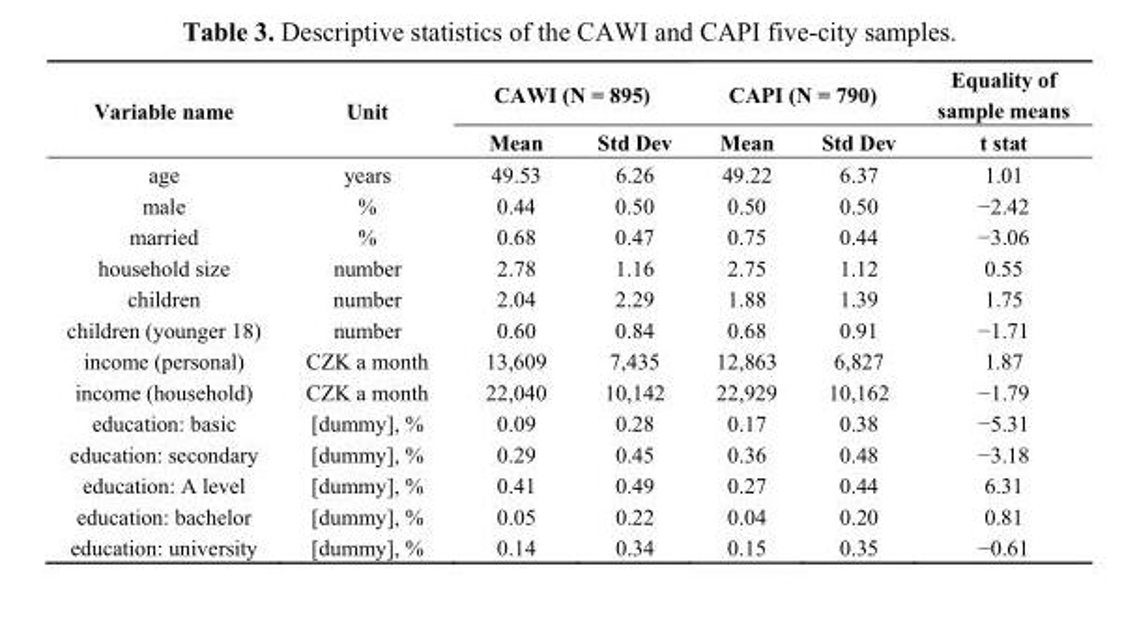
<table><thead><tr><td rowspan="2">Variable name</td><td rowspan="2">Unit</td><td colspan="2">CAWI (N = 895)</td><td colspan="2">CAPI (N = 790)</td><td rowspan="2">Equality of sample means t stat</td></tr><tr><td>Mean</td><td>Std Dev</td><td>Mean</td><td>Std Dev</td></tr></thead><tbody><tr><td>age</td><td>years</td><td>49.53</td><td>6.26</td><td>49.22</td><td>6.37</td><td>1.01</td></tr><tr><td>male</td><td>%</td><td>0.44</td><td>0.50</td><td>0.50</td><td>0.50</td><td>−2.42</td></tr><tr><td>married</td><td>%</td><td>0.68</td><td>0.47</td><td>0.75</td><td>0.44</td><td>−3.06</td></tr><tr><td>household size</td><td>number</td><td>2.78</td><td>1.16</td><td>2.75</td><td>1.12</td><td>0.55</td></tr><tr><td>children</td><td>number</td><td>2.04</td><td>2.29</td><td>1.88</td><td>1.39</td><td>1.75</td></tr><tr><td>children (younger 18)</td><td>number</td><td>0.60</td><td>0.84</td><td>0.68</td><td>0.91</td><td>−1.71</td></tr><tr><td>income (personal)</td><td>CZK a month</td><td>13,609</td><td>7,435</td><td>12,863</td><td>6,827</td><td>1.87</td></tr><tr><td>income (household)</td><td>CZK a month</td><td>22,040</td><td>10,142</td><td>22,929</td><td>10,162</td><td>−1.79</td></tr><tr><td>education: basic</td><td>[dummy], %</td><td>0.09</td><td>0.28</td><td>0.17</td><td>0.38</td><td>−5.31</td></tr><tr><td>education: secondary</td><td>[dummy], %</td><td>0.29</td><td>0.45</td><td>0.36</td><td>0.48</td><td>−3.18</td></tr><tr><td>education: A level</td><td>[dummy], %</td><td>0.41</td><td>0.49</td><td>0.27</td><td>0.44</td><td>6.31</td></tr><tr><td>education: bachelor</td><td>[dummy], %</td><td>0.05</td><td>0.22</td><td>0.04</td><td>0.20</td><td>0.81</td></tr><tr><td>education: university</td><td>[dummy], %</td><td>0.14</td><td>0.34</td><td>0.15</td><td>0.35</td><td>−0.61</td></tr></tbody></table>